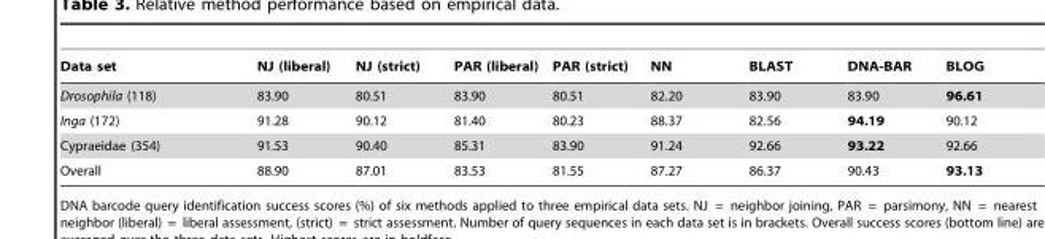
<table><thead><tr><td>Data set</td><td>NJ (liberal)</td><td>NJ (strict)</td><td>PAR (liberal)</td><td>PAR (strict)</td><td>NN</td><td>BLAST</td><td>DNA-BAR</td><td>BLOG</td></tr></thead><tbody><tr><td>Drosophila (118)</td><td>83.90</td><td>80.51</td><td>83.90</td><td>80.51</td><td>82.20</td><td>83.90</td><td>83.90</td><td>96.61</td></tr><tr><td>Inga (172)</td><td>91.28</td><td>90.12</td><td>81.40</td><td>80.23</td><td>88.37</td><td>82.56</td><td>94.19</td><td>90.12</td></tr><tr><td>Cypraeidae (354)</td><td>91.53</td><td>90.40</td><td>85.31</td><td>83.90</td><td>91.24</td><td>92.66</td><td>93.22</td><td>92.66</td></tr><tr><td>Overall</td><td>88.90</td><td>87.01</td><td>83.53</td><td>81.55</td><td>87.27</td><td>86.37</td><td>90.43</td><td>93.13</td></tr></tbody></table>